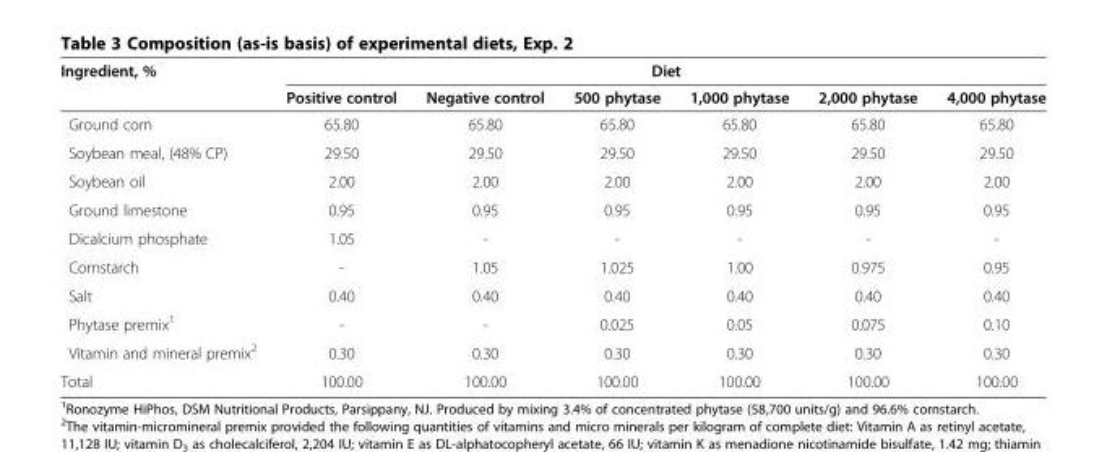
<table><thead><tr><td rowspan="2">Ingredient, %</td><td colspan="6">Diet</td></tr><tr><td>Positive control</td><td>Negative control</td><td>500 phytase</td><td>1,000 phytase</td><td>2,000 phytase</td><td>4,000 phytase</td></tr></thead><tbody><tr><td>Ground corn</td><td>65.80</td><td>65.80</td><td>65.80</td><td>65.80</td><td>65.80</td><td>65.80</td></tr><tr><td>Soybean meal, (48% CP)</td><td>29.50</td><td>29.50</td><td>29.50</td><td>29.50</td><td>29.50</td><td>29.50</td></tr><tr><td>Soybean oil</td><td>2.00</td><td>2.00</td><td>2.00</td><td>2.00</td><td>2.00</td><td>2.00</td></tr><tr><td>Ground limestone</td><td>0.95</td><td>0.95</td><td>0.95</td><td>0.95</td><td>0.95</td><td>0.95</td></tr><tr><td>Dicalcium phosphate</td><td>1.05</td><td>-</td><td>-</td><td>-</td><td>-</td><td>-</td></tr><tr><td>Cornstarch</td><td>-</td><td>1.05</td><td>1.025</td><td>1.00</td><td>0.975</td><td>0.95</td></tr><tr><td>Salt</td><td>0.40</td><td>0.40</td><td>0.40</td><td>0.40</td><td>0.40</td><td>0.40</td></tr><tr><td>Phytase premix<sup>1</sup></td><td>-</td><td>-</td><td>0.025</td><td>0.05</td><td>0.075</td><td>0.10</td></tr><tr><td>Vitamin and mineral premix<sup>2</sup></td><td>0.30</td><td>0.30</td><td>0.30</td><td>0.30</td><td>0.30</td><td>0.30</td></tr><tr><td>Total</td><td>100.00</td><td>100.00</td><td>100.00</td><td>100.00</td><td>100.00</td><td>100.00</td></tr></tbody></table>